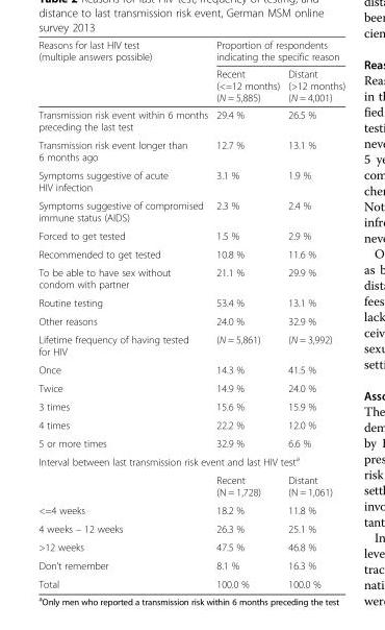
<table><thead><tr><td rowspan="2">Reasons for last HIV test (multiple answers possible)</td><td colspan="2">Proportion of respondents indicating the specific reason</td></tr><tr><td>Recent (&lt;=12 months) (N = 5,885)</td><td>Distant (&gt;12 months) (N = 4,001)</td></tr></thead><tbody><tr><td>Transmission risk event within 6 months preceding the last test</td><td>29.4 %</td><td>26.5 %</td></tr><tr><td>Transmission risk event longer than 6 months ago</td><td>12.7 %</td><td>13.1 %</td></tr><tr><td>Symptoms suggestive of acute HIV infection</td><td>3.1 %</td><td>1.9 %</td></tr><tr><td>Symptoms suggestive of compromised immune status (AIDS)</td><td>2.3 %</td><td>2.4 %</td></tr><tr><td>Forced to get tested</td><td>1.5 %</td><td>2.9 %</td></tr><tr><td>Recommended to get tested</td><td>10.8 %</td><td>11.6 %</td></tr><tr><td>To be able to have sex without condom with partner</td><td>21.1 %</td><td>29.9 %</td></tr><tr><td>Routine testing</td><td>53.4 %</td><td>13.1 %</td></tr><tr><td>Other reasons</td><td>24.0 %</td><td>32.9 %</td></tr><tr><td>Lifetime frequency of having tested for HIV</td><td>(N = 5,861)</td><td>(N = 3,992)</td></tr><tr><td>Once</td><td>14.3 %</td><td>41.5 %</td></tr><tr><td>Twice</td><td>14.9 %</td><td>24.0 %</td></tr><tr><td>3 times</td><td>15.6 %</td><td>15.9 %</td></tr><tr><td>4 times</td><td>22.2 %</td><td>12.0 %</td></tr><tr><td>5 or more times</td><td>32.9 %</td><td>6.6 %</td></tr><tr><td colspan="3">Interval between last transmission risk event and last HIV test<sup>a</sup></td></tr><tr><td></td><td>Recent (N = 1,728)</td><td>Distant (N = 1,061)</td></tr><tr><td>&lt;=4 weeks</td><td>18.2 %</td><td>11.8 %</td></tr><tr><td>4 weeks – 12 weeks</td><td>26.3 %</td><td>25.1 %</td></tr><tr><td>&gt;12 weeks</td><td>47.5 %</td><td>46.8 %</td></tr><tr><td>Don’t remember</td><td>8.1 %</td><td>16.3 %</td></tr><tr><td>Total</td><td>100.0 %</td><td>100.0 %</td></tr></tbody></table>